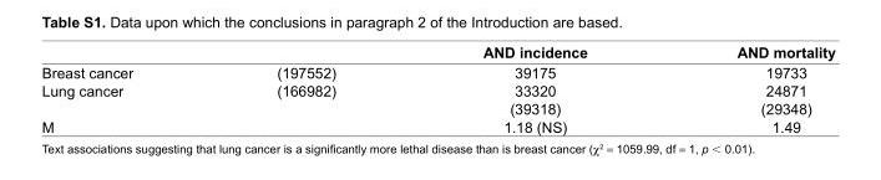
<table><thead><tr><td></td><td></td><td>AnD incidence</td><td>AnD mortality</td></tr></thead><tbody><tr><td>Breast cancer</td><td>(197552)</td><td>39175</td><td>19733</td></tr><tr><td>Lung cancer</td><td>(166982)</td><td>33320 (39318)</td><td>24871 (29348)</td></tr><tr><td>M</td><td></td><td>1.18 (ns)</td><td>1.49</td></tr></tbody></table>